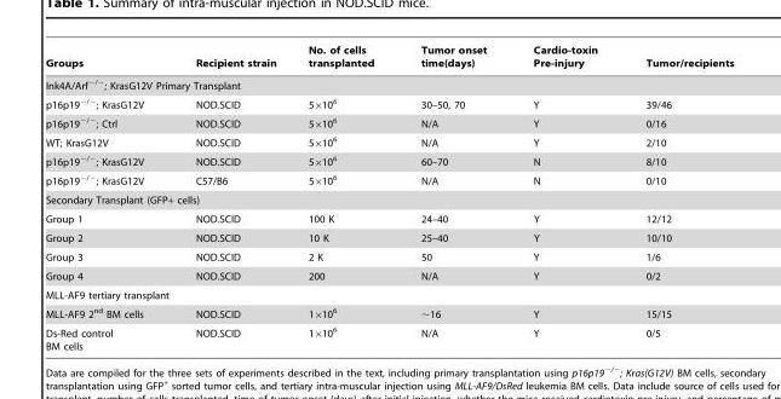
<table><thead><tr><td>Groups</td><td>Recipient strain</td><td>No. of cells transplanted</td><td>Tumor onset time(days)</td><td>Cardio-toxin Pre-injury</td><td>Tumor/recipients</td></tr></thead><tbody><tr><td colspan="6">Ink4A/Arf<sup>−/−</sup>; KrasG12V Primary Transplant</td></tr><tr><td>p16p19<sup>−/−</sup>; KrasG12V</td><td>NOD.SCID</td><td>5×10<sup>6</sup></td><td>30–50, 70</td><td>Y</td><td>39/46</td></tr><tr><td>p16p19<sup>−/−</sup>; Ctrl</td><td>NOD.SCID</td><td>5×10<sup>6</sup></td><td>N/A</td><td>Y</td><td>0/16</td></tr><tr><td>WT; KrasG12V</td><td>NOD.SCID</td><td>5×10<sup>6</sup></td><td>N/A</td><td>Y</td><td>2/10</td></tr><tr><td>p16p19<sup>−/−</sup>; KrasG12V</td><td>NOD.SCID</td><td>5×10<sup>6</sup></td><td>60–70</td><td>N</td><td>8/10</td></tr><tr><td>p16p19<sup>−/−</sup>; KrasG12V</td><td>C57/B6</td><td>5×10<sup>6</sup></td><td>N/A</td><td>N</td><td>0/10</td></tr><tr><td colspan="6">Secondary Transplant (GFP+ cells)</td></tr><tr><td>Group 1</td><td>NOD.SCID</td><td>100 K</td><td>24–40</td><td>Y</td><td>12/12</td></tr><tr><td>Group 2</td><td>NOD.SCID</td><td>10 K</td><td>25–40</td><td>Y</td><td>10/10</td></tr><tr><td>Group 3</td><td>NOD.SCID</td><td>2 K</td><td>50</td><td>Y</td><td>1/6</td></tr><tr><td>Group 4</td><td>NOD.SCID</td><td>200</td><td>N/A</td><td>Y</td><td>0/2</td></tr><tr><td colspan="6">MLL-AF9 tertiary transplant</td></tr><tr><td>MLL-AF9 2<sup>nd</sup> BM cells</td><td>NOD.SCID</td><td>1×10<sup>6</sup></td><td>∼16</td><td>Y</td><td>15/15</td></tr><tr><td>Ds-Red control BM cells</td><td>NOD.SCID</td><td>1×10<sup>6</sup></td><td>N/A</td><td>Y</td><td>0/5</td></tr></tbody></table>